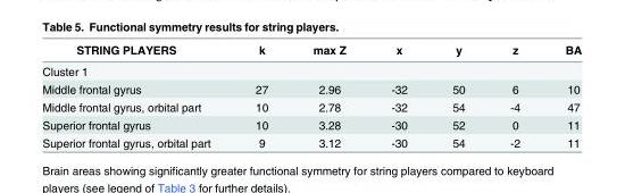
<table><thead><tr><td>STRING PLAYERS</td><td>k</td><td>max Z</td><td>x</td><td>y</td><td>z</td><td>BA</td></tr></thead><tbody><tr><td colspan="7">Cluster 1</td></tr><tr><td>Middle frontal gyrus</td><td>27</td><td>2.96</td><td>-32</td><td>50</td><td>6</td><td>10</td></tr><tr><td>Middle frontal gyrus, orbital part</td><td>10</td><td>2.78</td><td>-32</td><td>54</td><td>-4</td><td>47</td></tr><tr><td>Superior frontal gyrus</td><td>10</td><td>3.28</td><td>-30</td><td>52</td><td>0</td><td>11</td></tr><tr><td>Superior frontal gyrus, orbital part</td><td>9</td><td>3.12</td><td>-30</td><td>54</td><td>-2</td><td>11</td></tr></tbody></table>